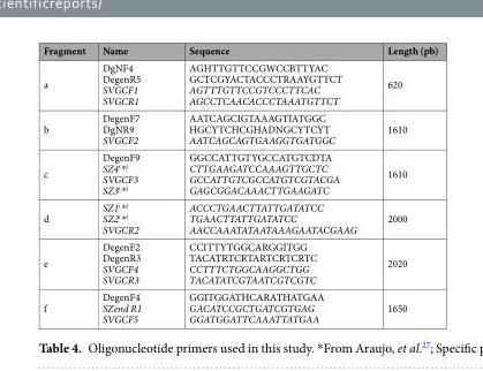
<table><thead><tr><td>Fragment</td><td>Name</td><td>Sequence</td><td>Length (pb)</td></tr></thead><tbody><tr><td>a</td><td>DgNF4 DegenR5 SVGCF1 SVGCR1</td><td>AGHTTGTTCCGWCCBTTYAC GCTCGYACTACCCTRAAYGTTCT AGTTTGTTCCGTCCCTTCAC AGCCTCAACACCCTAAATGTTCT</td><td>620</td></tr><tr><td>b</td><td>DegenF7 DgNR9 SVGCF2</td><td>AATCAGCIGTAAAGTIATGGC HGCYTCHCGHADNGCYTCYT AATCAGCAGTGAAGGTGATGGC</td><td>1610</td></tr><tr><td>c</td><td>DegenF9 SZ4<sup>(</sup>*<sup>)</sup> SVGCF3 SZ3<sup>(</sup>*<sup>)</sup></td><td>GGCCATTGTYGCCATGTCDTA CTTGAAGATCCAAAGTTGCTC GCCATTGTCGCCATGTCGTACGA GAGCGGACAAACTTGAAGATC</td><td>1610</td></tr><tr><td>d</td><td>SZ1<sup>(</sup>*<sup>)</sup> SZ2<sup>(</sup>*<sup>)</sup> SVGCR2</td><td>ACCCTGAACTTATTGATATCC TGAACTTATTGATATCC AACCAAATATAATAAAGAATACGAAG</td><td>2000</td></tr><tr><td>e</td><td>DegenF2 DegenR3 SVGCF4 SVGCR3</td><td>CCITTYTGGCARGGITGG TACATRTCRTARTCRTCRTC CCTTTCTGGCAAGGCTGG TACATATCGTAATCGTCGTC</td><td>2020</td></tr><tr><td>f</td><td>DegenF4 SZend R1 SVGCF5</td><td>GGITGGATHCARATHATGAA GACATCCGCTGATCGTGAG GGATGGATTCAAATTATGAA</td><td>1650</td></tr></tbody></table>